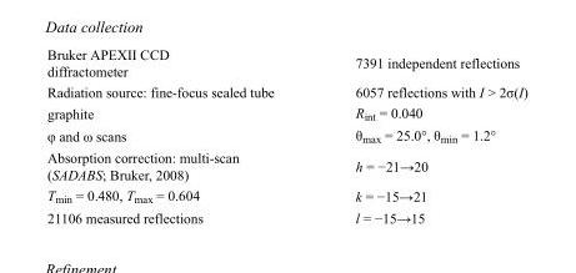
<table><tbody><tr><td>Bruker APEXII CCD diffractometer</td><td>7391 independent reflections</td></tr><tr><td>Radiation source: fine-focus sealed tube</td><td>6057 reflections with I &gt; 2σ(I)</td></tr><tr><td>graphite</td><td>R<sub>int</sub> = 0.040</td></tr><tr><td>φ and ω scans</td><td>θ<sub>max</sub> = 25.0°, θ<sub>min</sub> = 1.2°</td></tr><tr><td>Absorption correction: multi-scan (SADABS; Bruker, 2008)</td><td>h = −21→20</td></tr><tr><td>T<sub>min</sub> = 0.480, T<sub>max</sub> = 0.604</td><td>k = −15→21</td></tr><tr><td>21106 measured reflections</td><td>l = −15→15</td></tr></tbody></table>